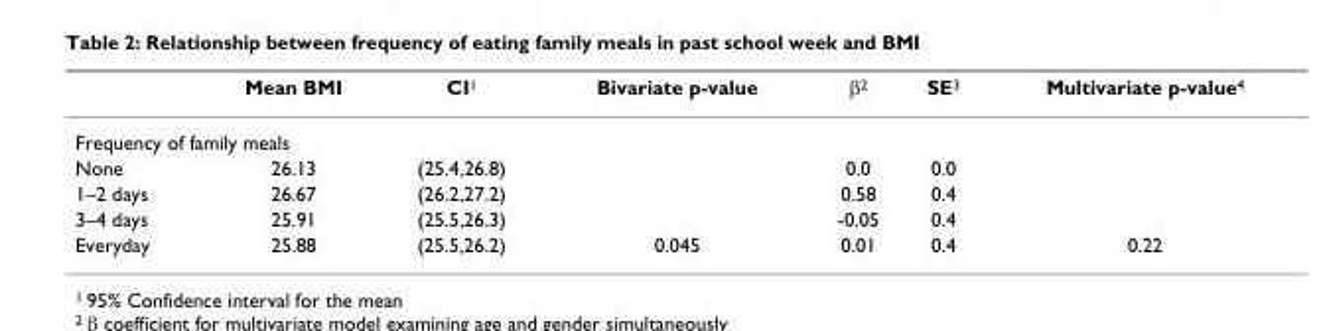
<table><thead><tr><td></td><td>Mean BMI</td><td>CI<sup>1</sup></td><td>Bivariate p-value</td><td>β<sup>2</sup></td><td>SE<sup>3</sup></td><td>Multivariate p-value<sup>4</sup></td></tr></thead><tbody><tr><td colspan="7">Frequency of family meals</td></tr><tr><td>None</td><td>26.13</td><td>(25.4,26.8)</td><td></td><td>0.0</td><td>0.0</td><td></td></tr><tr><td>1–2 days</td><td>26.67</td><td>(26.2,27.2)</td><td></td><td>0.58</td><td>0.4</td><td></td></tr><tr><td>3–4 days</td><td>25.91</td><td>(25.5,26.3)</td><td></td><td>-0.05</td><td>0.4</td><td></td></tr><tr><td>Everyday</td><td>25.88</td><td>(25.5,26.2)</td><td>0.045</td><td>0.01</td><td>0.4</td><td>0.22</td></tr></tbody></table>